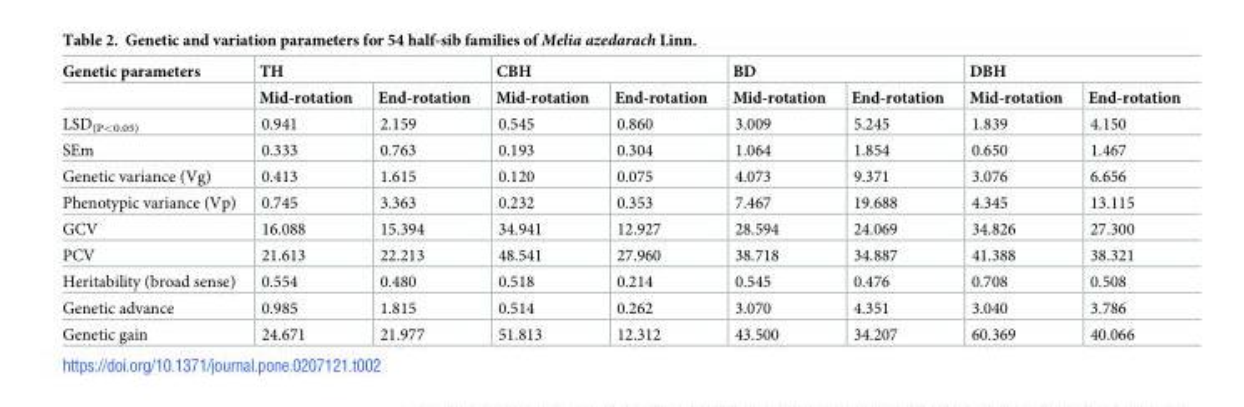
<table><thead><tr><td rowspan="2">Genetic parameters</td><td colspan="2">TH</td><td colspan="2">CBH</td><td colspan="2">BD</td><td colspan="2">DBH</td></tr><tr><td>Mid-rotation</td><td>End-rotation</td><td>Mid-rotation</td><td>End-rotation</td><td>Mid-rotation</td><td>End-rotation</td><td>Mid-rotation</td><td>End-rotation</td></tr></thead><tbody><tr><td>LSD<sub>(P&lt;0.05)</sub></td><td>0.941</td><td>2.159</td><td>0.545</td><td>0.860</td><td>3.009</td><td>5.245</td><td>1.839</td><td>4.150</td></tr><tr><td>SEm</td><td>0.333</td><td>0.763</td><td>0.193</td><td>0.304</td><td>1.064</td><td>1.854</td><td>0.650</td><td>1.467</td></tr><tr><td>Genetic variance (Vg)</td><td>0.413</td><td>1.615</td><td>0.120</td><td>0.075</td><td>4.073</td><td>9.371</td><td>3.076</td><td>6.656</td></tr><tr><td>Phenotypic variance (Vp)</td><td>0.745</td><td>3.363</td><td>0.232</td><td>0.353</td><td>7.467</td><td>19.688</td><td>4.345</td><td>13.115</td></tr><tr><td>GCV</td><td>16.088</td><td>15.394</td><td>34.941</td><td>12.927</td><td>28.594</td><td>24.069</td><td>34.826</td><td>27.300</td></tr><tr><td>PCV</td><td>21.613</td><td>22.213</td><td>48.541</td><td>27.960</td><td>38.718</td><td>34.887</td><td>41.388</td><td>38.321</td></tr><tr><td>Heritability (broad sense)</td><td>0.554</td><td>0.480</td><td>0.518</td><td>0.214</td><td>0.545</td><td>0.476</td><td>0.708</td><td>0.508</td></tr><tr><td>Genetic advance</td><td>0.985</td><td>1.815</td><td>0.514</td><td>0.262</td><td>3.070</td><td>4.351</td><td>3.040</td><td>3.786</td></tr><tr><td>Genetic gain</td><td>24.671</td><td>21.977</td><td>51.813</td><td>12.312</td><td>43.500</td><td>34.207</td><td>60.369</td><td>40.066</td></tr></tbody></table>